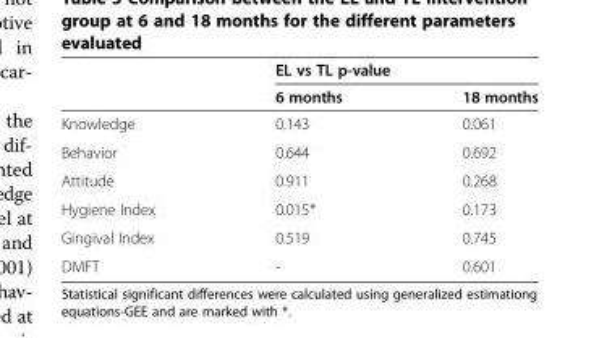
<table><thead><tr><td rowspan="2"></td><td colspan="2">EL vs TL p-value</td></tr><tr><td>6 months</td><td>18 months</td></tr></thead><tbody><tr><td>Knowledge</td><td>0.143</td><td>0.061</td></tr><tr><td>Behavior</td><td>0.644</td><td>0.692</td></tr><tr><td>Attitude</td><td>0.911</td><td>0.268</td></tr><tr><td>Hygiene Index</td><td>0.015*</td><td>0.173</td></tr><tr><td>Gingival Index</td><td>0.519</td><td>0.745</td></tr><tr><td>DMFT</td><td>-</td><td>0.601</td></tr></tbody></table>